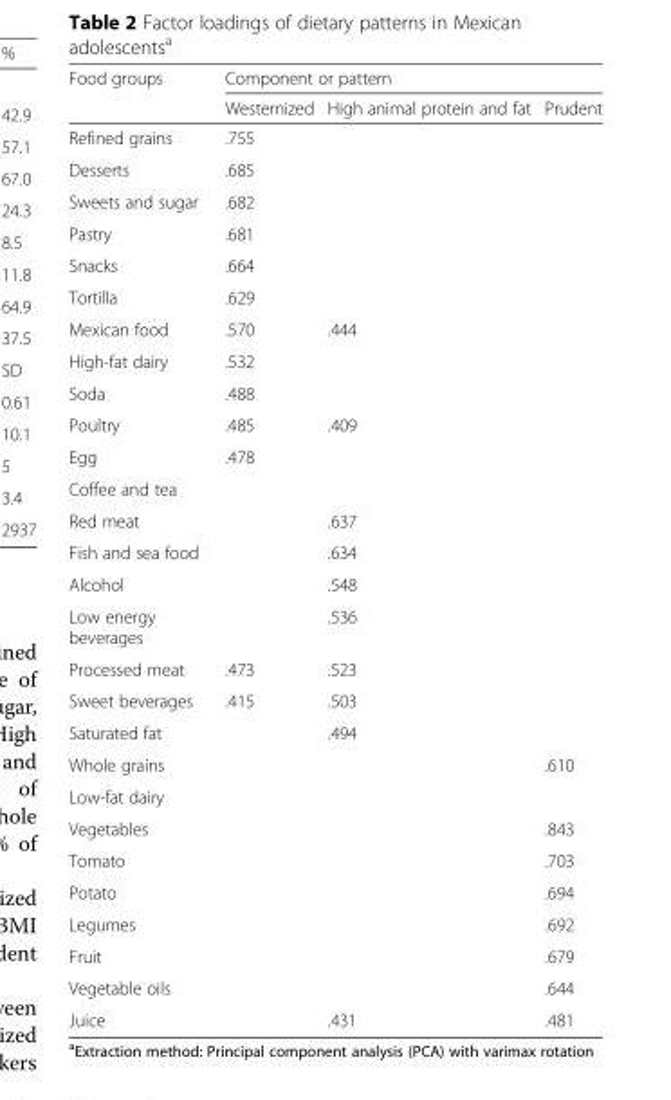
<table><thead><tr><td rowspan="2">Food groups</td><td colspan="3">Component or pattern</td></tr><tr><td>Westernized</td><td>High animal protein and fat</td><td>Prudent</td></tr></thead><tbody><tr><td>Refined grains</td><td>.755</td><td></td><td></td></tr><tr><td>Desserts</td><td>.685</td><td></td><td></td></tr><tr><td>Sweets and sugar</td><td>.682</td><td></td><td></td></tr><tr><td>Pastry</td><td>.681</td><td></td><td></td></tr><tr><td>Snacks</td><td>.664</td><td></td><td></td></tr><tr><td>Tortilla</td><td>.629</td><td></td><td></td></tr><tr><td>Mexican food</td><td>.570</td><td>.444</td><td></td></tr><tr><td>High-fat dairy</td><td>.532</td><td></td><td></td></tr><tr><td>Soda</td><td>.488</td><td></td><td></td></tr><tr><td>Poultry</td><td>.485</td><td>.409</td><td></td></tr><tr><td>Egg</td><td>.478</td><td></td><td></td></tr><tr><td colspan="4">Coffee and tea</td></tr><tr><td>Red meat</td><td></td><td>.637</td><td></td></tr><tr><td>Fish and sea food</td><td></td><td>.634</td><td></td></tr><tr><td>Alcohol</td><td></td><td>.548</td><td></td></tr><tr><td>Low energy beverages</td><td></td><td>.536</td><td></td></tr><tr><td>Processed meat</td><td>.473</td><td>.523</td><td></td></tr><tr><td>Sweet beverages</td><td>.415</td><td>.503</td><td></td></tr><tr><td>Saturated fat</td><td></td><td>.494</td><td></td></tr><tr><td>Whole grains</td><td></td><td></td><td>.610</td></tr><tr><td colspan="4">Low-fat dairy</td></tr><tr><td>Vegetables</td><td></td><td></td><td>.843</td></tr><tr><td>Tomato</td><td></td><td></td><td>.703</td></tr><tr><td>Potato</td><td></td><td></td><td>.694</td></tr><tr><td>Legumes</td><td></td><td></td><td>.692</td></tr><tr><td>Fruit</td><td></td><td></td><td>.679</td></tr><tr><td>Vegetable oils</td><td></td><td></td><td>.644</td></tr><tr><td>Juice</td><td></td><td>.431</td><td>.481</td></tr></tbody></table>